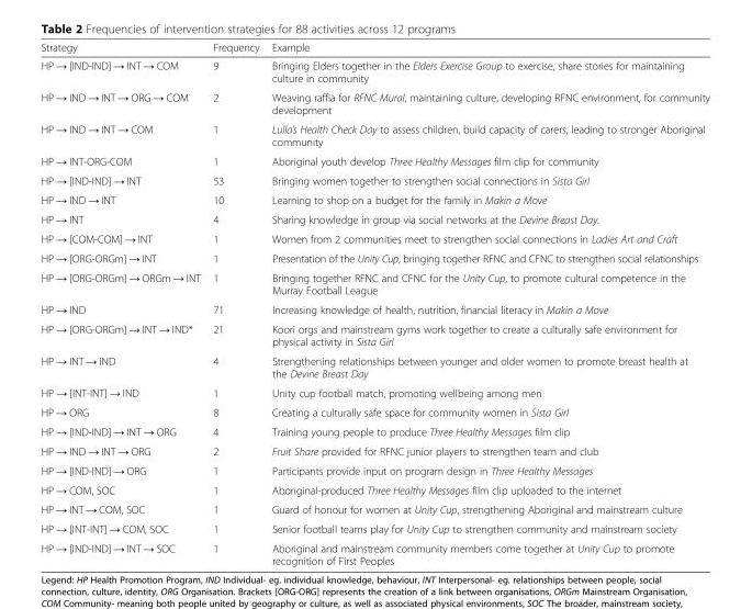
<table><thead><tr><td>Strategy</td><td>Frequency</td><td>Example</td></tr></thead><tbody><tr><td>HP → [IND-IND] → INT → COM</td><td>9</td><td>Bringing Elders together in the Elders Exercise Group to exercise, share stories for maintaining culture in community</td></tr><tr><td>HP → IND → INT → ORG → COM</td><td>2</td><td>Weaving raffia for RFNC Mural, maintaining culture, developing RFNC environment, for community development</td></tr><tr><td>HP → IND → INT → COM</td><td>1</td><td>Lulla’s Health Check Day to assess children, build capacity of carers, leading to stronger Aboriginal community</td></tr><tr><td>HP → INT-ORG-COM</td><td>1</td><td>Aboriginal youth develop Three Healthy Messages film clip for community</td></tr><tr><td>HP → [IND-IND] → INT</td><td>53</td><td>Bringing women together to strengthen social connections in Sista Girl</td></tr><tr><td>HP → IND → INT</td><td>10</td><td>Learning to shop on a budget for the family in Makin a Move</td></tr><tr><td>HP → INT</td><td>4</td><td>Sharing knowledge in group via social networks at the Devine Breast Day.</td></tr><tr><td>HP → [COM-COM] → INT</td><td>1</td><td>Women from 2 communities meet to strengthen social connections in Ladies Art and Craft</td></tr><tr><td>HP → [ORG-ORGm] → INT</td><td>1</td><td>Presentation of the Unity Cup, bringing together RFNC and CFNC to strengthen social relationships</td></tr><tr><td>HP → [ORG-ORGm] → ORGm → INT</td><td>1</td><td>Bringing together RFNC and CFNC for the Unity Cup, to promote cultural competence in the Murray Football League</td></tr><tr><td>HP → IND</td><td>71</td><td>Increasing knowledge of health, nutrition, financial literacy in Makin a Move</td></tr><tr><td>HP → [ORG-ORGm] → INT → IND*</td><td>21</td><td>Koori orgs and mainstream gyms work together to create a culturally safe environment for physical activity in Sista Girl</td></tr><tr><td>HP → INT → IND</td><td>4</td><td>Strengthening relationships between younger and older women to promote breast health at the Devine Breast Day</td></tr><tr><td>HP → [INT-INT] → IND</td><td>1</td><td>Unity cup football match, promoting wellbeing among men</td></tr><tr><td>HP → ORG</td><td>8</td><td>Creating a culturally safe space for community women in Sista Girl</td></tr><tr><td>HP → [IND-IND] → INT → ORG</td><td>4</td><td>Training young people to produce Three Healthy Messages film clip</td></tr><tr><td>HP → IND → INT → ORG</td><td>2</td><td>Fruit Share provided for RFNC junior players to strengthen team and club</td></tr><tr><td>HP → [IND-IND] → ORG</td><td>1</td><td>Participants provide input on program design in Three Healthy Messages</td></tr><tr><td>HP → COM, SOC</td><td>1</td><td>Aboriginal-produced Three Healthy Messages film clip uploaded to the internet</td></tr><tr><td>HP → INT → COM, SOC</td><td>1</td><td>Guard of honour for women at Unity Cup, strengthening Aboriginal and mainstream culture</td></tr><tr><td>HP → [INT-INT] → COM, SOC</td><td>1</td><td>Senior football teams play for Unity Cup to strengthen community and mainstream society</td></tr><tr><td>HP → [IND-IND] → INT → SOC</td><td>1</td><td>Aboriginal and mainstream community members come together at Unity Cup to promote recognition of First Peoples</td></tr></tbody></table>